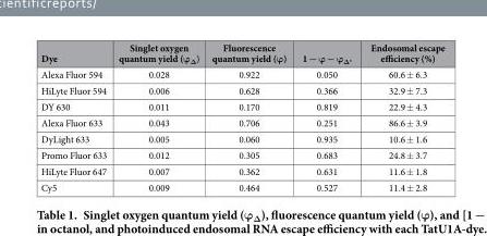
<table><thead><tr><td>Dye</td><td>Singlet oxygen quantum yield (ϕ<sub>Δ</sub>)</td><td>Fluorescence quantum yield (ϕ)</td><td>1 − ϕ − ϕ<sub>Δ</sub>*</td><td>Endosomal escape efficiency (%)</td></tr></thead><tbody><tr><td>Alexa Fluor 594</td><td>0.028</td><td>0.922</td><td>0.050</td><td>60.6 ± 6.3</td></tr><tr><td>HiLyte Fluor 594</td><td>0.006</td><td>0.628</td><td>0.366</td><td>32.9 ± 7.3</td></tr><tr><td>DY 630</td><td>0.011</td><td>0.170</td><td>0.819</td><td>22.9 ± 4.3</td></tr><tr><td>Alexa Fluor 633</td><td>0.043</td><td>0.706</td><td>0.251</td><td>86.6 ± 3.9</td></tr><tr><td>DyLight 633</td><td>0.005</td><td>0.060</td><td>0.935</td><td>10.6 ± 1.6</td></tr><tr><td>Promo Fluor 633</td><td>0.012</td><td>0.305</td><td>0.683</td><td>24.8 ± 3.7</td></tr><tr><td>HiLyte Fluor 647</td><td>0.007</td><td>0.362</td><td>0.631</td><td>11.6 ± 1.8</td></tr><tr><td>Cy5</td><td>0.009</td><td>0.464</td><td>0.527</td><td>11.4 ± 2.8</td></tr></tbody></table>